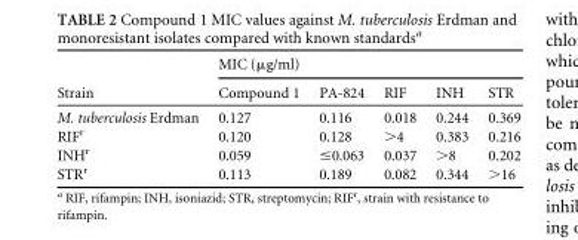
<table><thead><tr><td rowspan="2">Strain</td><td colspan="5">MIC (μg/ml)</td></tr><tr><td>Compound 1</td><td>PA-824</td><td>RIF</td><td>INH</td><td>STR</td></tr></thead><tbody><tr><td>M. tuberculosis Erdman</td><td>0.127</td><td>0.116</td><td>0.018</td><td>0.244</td><td>0.369</td></tr><tr><td>RIF<sup>r</sup></td><td>0.120</td><td>0.128</td><td>&gt;4</td><td>0.383</td><td>0.216</td></tr><tr><td>INH<sup>r</sup></td><td>0.059</td><td>≤0.063</td><td>0.037</td><td>&gt;8</td><td>0.202</td></tr><tr><td>STR<sup>r</sup></td><td>0.113</td><td>0.189</td><td>0.082</td><td>0.344</td><td>&gt;16</td></tr></tbody></table>